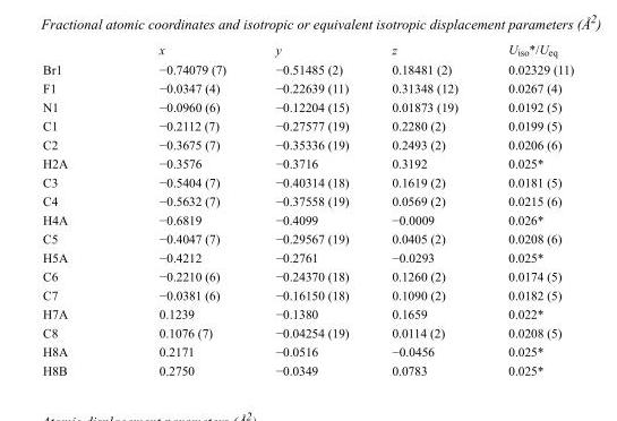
<table><thead><tr><td></td><td>x</td><td>y</td><td>z</td><td>U<sub>iso</sub>*/U<sub>eq</sub></td></tr></thead><tbody><tr><td>Br1</td><td>−0.74079 (7)</td><td>−0.51485 (2)</td><td>0.18481 (2)</td><td>0.02329 (11)</td></tr><tr><td>F1</td><td>−0.0347 (4)</td><td>−0.22639 (11)</td><td>0.31348 (12)</td><td>0.0267 (4)</td></tr><tr><td>N1</td><td>−0.0960 (6)</td><td>−0.12204 (15)</td><td>0.01873 (19)</td><td>0.0192 (5)</td></tr><tr><td>C1</td><td>−0.2112 (7)</td><td>−0.27577 (19)</td><td>0.2280 (2)</td><td>0.0199 (5)</td></tr><tr><td>C2</td><td>−0.3675 (7)</td><td>−0.35336 (19)</td><td>0.2493 (2)</td><td>0.0206 (6)</td></tr><tr><td>H2A</td><td>−0.3576</td><td>−0.3716</td><td>0.3192</td><td>0.025*</td></tr><tr><td>C3</td><td>−0.5404 (7)</td><td>−0.40314 (18)</td><td>0.1619 (2)</td><td>0.0181 (5)</td></tr><tr><td>C4</td><td>−0.5632 (7)</td><td>−0.37558 (19)</td><td>0.0569 (2)</td><td>0.0215 (6)</td></tr><tr><td>H4A</td><td>−0.6819</td><td>−0.4099</td><td>−0.0009</td><td>0.026*</td></tr><tr><td>C5</td><td>−0.4047 (7)</td><td>−0.29567 (19)</td><td>0.0405 (2)</td><td>0.0208 (6)</td></tr><tr><td>H5A</td><td>−0.4212</td><td>−0.2761</td><td>−0.0293</td><td>0.025*</td></tr><tr><td>C6</td><td>−0.2210 (6)</td><td>−0.24370 (18)</td><td>0.1260 (2)</td><td>0.0174 (5)</td></tr><tr><td>C7</td><td>−0.0381 (6)</td><td>−0.16150 (18)</td><td>0.1090 (2)</td><td>0.0182 (5)</td></tr><tr><td>H7A</td><td>0.1239</td><td>−0.1380</td><td>0.1659</td><td>0.022*</td></tr><tr><td>C8</td><td>0.1076 (7)</td><td>−0.04254 (19)</td><td>0.0114 (2)</td><td>0.0208 (5)</td></tr><tr><td>H8A</td><td>0.2171</td><td>−0.0516</td><td>−0.0456</td><td>0.025*</td></tr><tr><td>H8B</td><td>0.2750</td><td>−0.0349</td><td>0.0783</td><td>0.025*</td></tr></tbody></table>